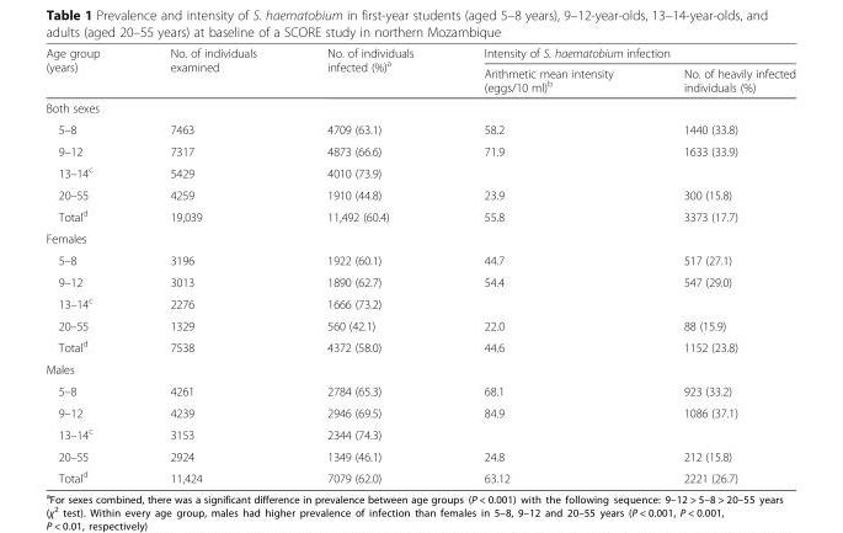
<table><thead><tr><td rowspan="2">Age group (years)</td><td rowspan="2">No. of individuals examined</td><td rowspan="2">No. of individuals infected (%)<sup>a</sup></td><td colspan="2">Intensity of S. haematobium infection</td></tr><tr><td>Arithmetic mean intensity (eggs/10 ml)<sup>b</sup></td><td>No. of heavily infected individuals (%)</td></tr></thead><tbody><tr><td colspan="5">Both sexes</td></tr><tr><td>5–8</td><td>7463</td><td>4709 (63.1)</td><td>58.2</td><td>1440 (33.8)</td></tr><tr><td>9–12</td><td>7317</td><td>4873 (66.6)</td><td>71.9</td><td>1633 (33.9)</td></tr><tr><td>13–14<sup>c</sup></td><td>5429</td><td>4010 (73.9)</td><td></td><td></td></tr><tr><td>20–55</td><td>4259</td><td>1910 (44.8)</td><td>23.9</td><td>300 (15.8)</td></tr><tr><td>Total<sup>d</sup></td><td>19,039</td><td>11,492 (60.4)</td><td>55.8</td><td>3373 (17.7)</td></tr><tr><td colspan="5">Females</td></tr><tr><td>5–8</td><td>3196</td><td>1922 (60.1)</td><td>44.7</td><td>517 (27.1)</td></tr><tr><td>9–12</td><td>3013</td><td>1890 (62.7)</td><td>54.4</td><td>547 (29.0)</td></tr><tr><td>13–14<sup>c</sup></td><td>2276</td><td>1666 (73.2)</td><td></td><td></td></tr><tr><td>20–55</td><td>1329</td><td>560 (42.1)</td><td>22.0</td><td>88 (15.9)</td></tr><tr><td>Total<sup>d</sup></td><td>7538</td><td>4372 (58.0)</td><td>44.6</td><td>1152 (23.8)</td></tr><tr><td colspan="5">Males</td></tr><tr><td>5–8</td><td>4261</td><td>2784 (65.3)</td><td>68.1</td><td>923 (33.2)</td></tr><tr><td>9–12</td><td>4239</td><td>2946 (69.5)</td><td>84.9</td><td>1086 (37.1)</td></tr><tr><td>13–14<sup>c</sup></td><td>3153</td><td>2344 (74.3)</td><td></td><td></td></tr><tr><td>20–55</td><td>2924</td><td>1349 (46.1)</td><td>24.8</td><td>212 (15.8)</td></tr><tr><td>Total<sup>d</sup></td><td>11,424</td><td>7079 (62.0)</td><td>63.12</td><td>2221 (26.7)</td></tr></tbody></table>